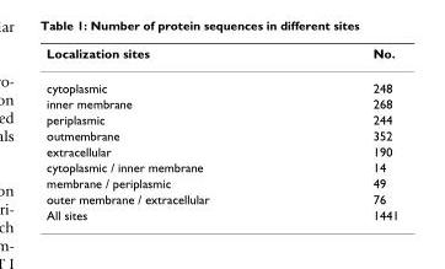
<table><thead><tr><td>Localization sites</td><td>No.</td></tr></thead><tbody><tr><td>cytoplasmic</td><td>248</td></tr><tr><td>inner membrane</td><td>268</td></tr><tr><td>periplasmic</td><td>244</td></tr><tr><td>outmembrane</td><td>352</td></tr><tr><td>extracellular</td><td>190</td></tr><tr><td>cytoplasmic / inner membrane</td><td>14</td></tr><tr><td>membrane / periplasmic</td><td>49</td></tr><tr><td>outer membrane / extracellular</td><td>76</td></tr><tr><td>All sites</td><td>1441</td></tr></tbody></table>